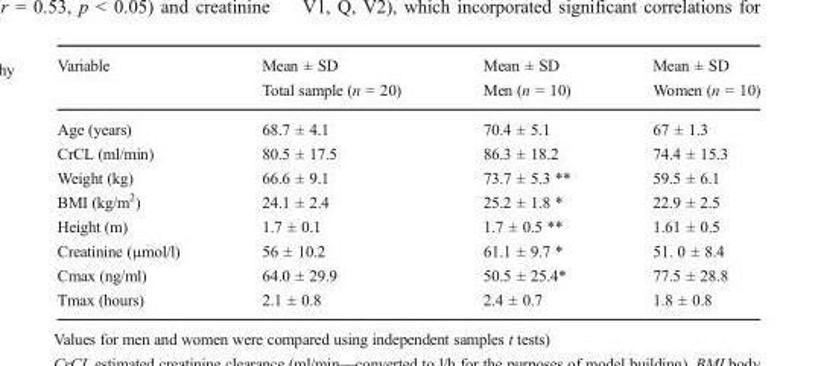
<table><thead><tr><td>Variable</td><td>Mean ± SD Total sample (n = 20)</td><td>Mean ± SD Men (n = 10)</td><td>Mean ± SD Women (n = 10)</td></tr></thead><tbody><tr><td>Age (years)</td><td>68.7 ± 4.1</td><td>70.4 ± 5.1</td><td>67 ± 1.3</td></tr><tr><td>CrCL (ml/min)</td><td>80.5 ± 17.5</td><td>86.3 ± 18.2</td><td>74.4 ± 15.3</td></tr><tr><td>Weight (kg)</td><td>66.6 ± 9.1</td><td>73.7 ± 5.3 **</td><td>59.5 ± 6.1</td></tr><tr><td>BMI (kg/m<sup>2</sup>)</td><td>24.1 ± 2.4</td><td>25.2 ± 1.8 *</td><td>22.9 ± 2.5</td></tr><tr><td>Height (m)</td><td>1.7 ± 0.1</td><td>1.7 ± 0.5 **</td><td>1.61 ± 0.5</td></tr><tr><td>Creatinine (μmol/l)</td><td>56 ± 10.2</td><td>61.1 ± 9.7 *</td><td>51. 0 ± 8.4</td></tr><tr><td>Cmax (ng/ml)</td><td>64.0 ± 29.9</td><td>50.5 ± 25.4*</td><td>77.5 ± 28.8</td></tr><tr><td>Tmax (hours)</td><td>2.1 ± 0.8</td><td>2.4 ± 0.7</td><td>1.8 ± 0.8</td></tr></tbody></table>